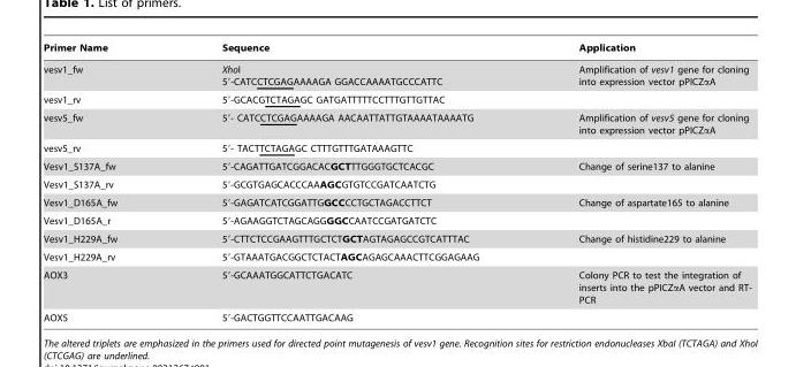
<table><thead><tr><td>Primer Name</td><td>Sequence</td><td>Application</td></tr></thead><tbody><tr><td>vesv1_fw</td><td>XhoI 5′-CATCCTCGAGAAAAGA GGACCAAAATGCCCATTC</td><td>Amplification of vesv1 gene for cloning into expression vector pPICZαA</td></tr><tr><td>vesv1_rv</td><td>5′-GCACGTCTAGAGC GATGATTTTTCCTTTGTTGTTAC</td><td></td></tr><tr><td>vesv5_fw</td><td>5′- CATCCTCGAGAAAAGA AACAATTATTGTAAAATAAAATG</td><td>Amplification of vesv5 gene for cloning into expression vector pPICZαA</td></tr><tr><td>vesv5_rv</td><td>5′- TACTTCTAGAGC CTTTGTTTGATAAAGTTC</td><td></td></tr><tr><td>Vesv1_S137A_fw</td><td>5′-CAGATTGATCGGACACGCTTTGGGTGCTCACGC</td><td>Change of serine137 to alanine</td></tr><tr><td>Vesv1_S137A_rv</td><td>5′-GCGTGAGCACCCAAAGCGTGTCCGATCAATCTG</td><td></td></tr><tr><td>Vesv1_D165A_fw</td><td>5′-GAGATCATCGGATTGGCCCCTGCTAGACCTTCT</td><td>Change of aspartate165 to alanine</td></tr><tr><td>Vesv1_D165A_r</td><td>5′-AGAAGGTCTAGCAGGGGCCAATCCGATGATCTC</td><td></td></tr><tr><td>Vesv1_H229A_fw</td><td>5′-CTTCTCCGAAGTTTGCTCTGCTAGTAGAGCCGTCATTTAC</td><td>Change of histidine229 to alanine</td></tr><tr><td>Vesv1_H229A_rv</td><td>5′-GTAAATGACGGCTCTACTAGCAGAGCAAACTTCGGAGAAG</td><td></td></tr><tr><td>AOX3</td><td>5′-GCAAATGGCATTCTGACATC</td><td>Colony PCR to test the integration of inserts into the pPICZαA vector and RT- PCR</td></tr><tr><td>AOX5</td><td>5′-GACTGGTTCCAATTGACAAG</td><td></td></tr></tbody></table>